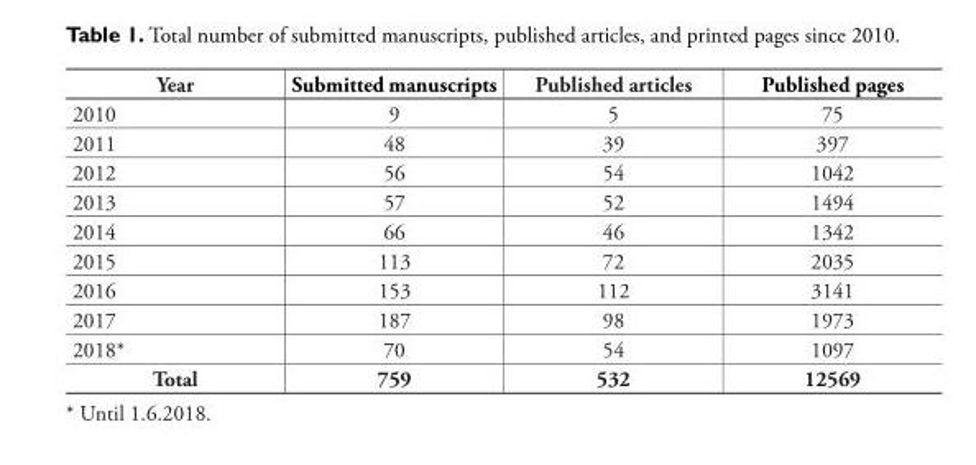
<table><tbody><tr><td>Year</td><td>Submitted manuscripts</td><td>Published articles</td><td>Published pages</td></tr><tr><td>2010</td><td>9</td><td>5</td><td>75</td></tr><tr><td>2011</td><td>48</td><td>39</td><td>397</td></tr><tr><td>2012</td><td>56</td><td>54</td><td>1042</td></tr><tr><td>2013</td><td>57</td><td>52</td><td>1494</td></tr><tr><td>2014</td><td>66</td><td>46</td><td>1342</td></tr><tr><td>2015</td><td>113</td><td>72</td><td>2035</td></tr><tr><td>2016</td><td>153</td><td>112</td><td>3141</td></tr><tr><td>2017</td><td>187</td><td>98</td><td>1973</td></tr><tr><td>2018*</td><td>70</td><td>54</td><td>1097</td></tr><tr><td>Total</td><td>759</td><td>532</td><td>12569</td></tr></tbody></table>